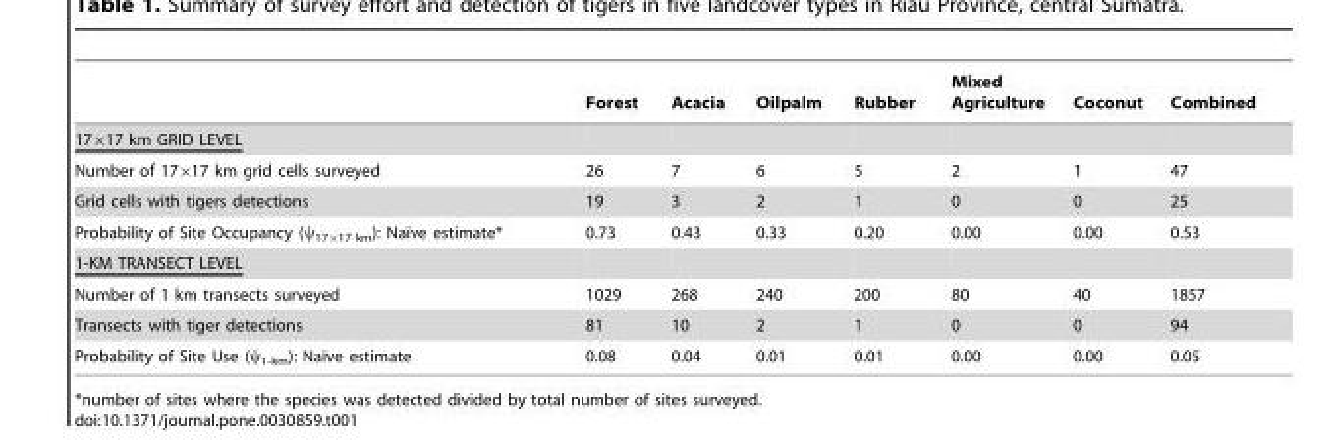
<table><thead><tr><td></td><td>Forest</td><td>Acacia</td><td>Oilpalm</td><td>Rubber</td><td>Mixed Agriculture</td><td>Coconut</td><td>Combined</td></tr></thead><tbody><tr><td colspan="8">17×17 km GRID LEVEL</td></tr><tr><td>Number of 17×17 km grid cells surveyed</td><td>26</td><td>7</td><td>6</td><td>5</td><td>2</td><td>1</td><td>47</td></tr><tr><td>Grid cells with tigers detections</td><td>19</td><td>3</td><td>2</td><td>1</td><td>0</td><td>0</td><td>25</td></tr><tr><td>Probability of Site Occupancy (y17617 km): Naı¨ve estimate*</td><td>0.73</td><td>0.43</td><td>0.33</td><td>0.20</td><td>0.00</td><td>0.00</td><td>0.53</td></tr><tr><td colspan="8">1-KM TRANSECT LEVEL</td></tr><tr><td>Number of 1 km transects surveyed</td><td>1029</td><td>268</td><td>240</td><td>200</td><td>80</td><td>40</td><td>1857</td></tr><tr><td>Transects with tiger detections</td><td>81</td><td>10</td><td>2</td><td>1</td><td>0</td><td>0</td><td>94</td></tr><tr><td>Probability of Site Use (y1-km): Naı¨ve estimate</td><td>0.08</td><td>0.04</td><td>0.01</td><td>0.01</td><td>0.00</td><td>0.00</td><td>0.05</td></tr></tbody></table>